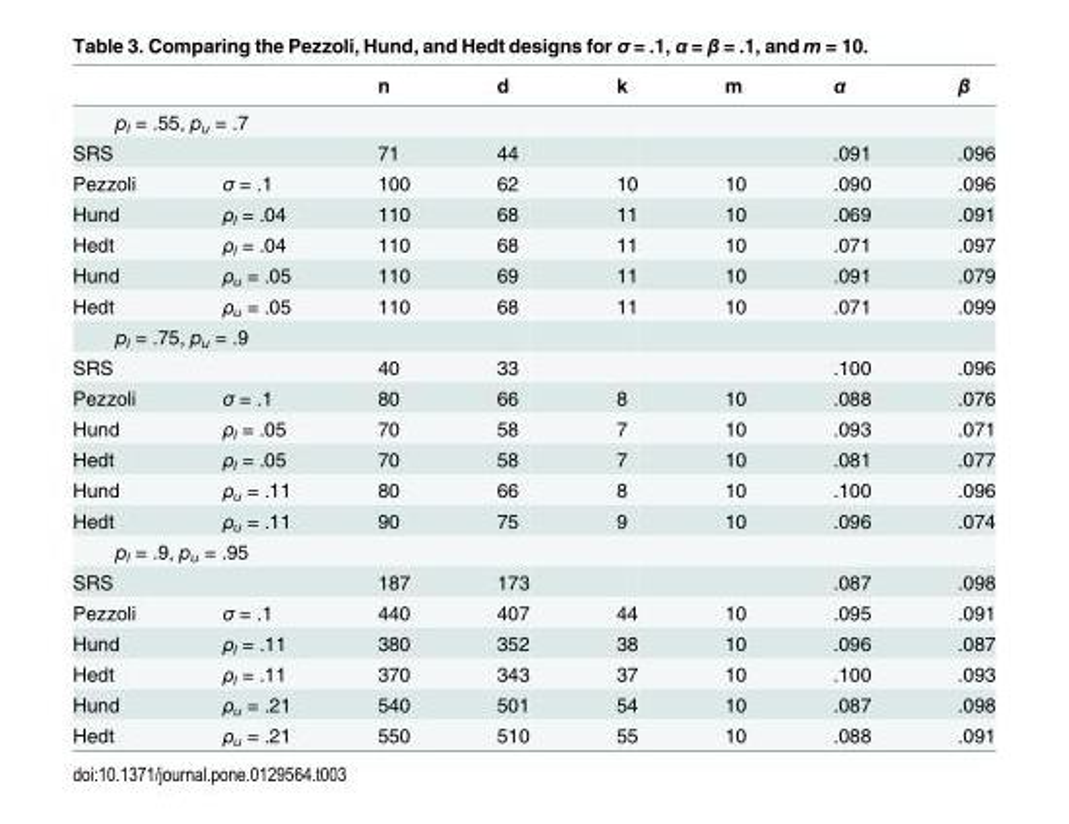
<table><thead><tr><td></td><td></td><td>n</td><td>d</td><td>k</td><td>m</td><td>α</td><td>β</td></tr></thead><tbody><tr><td colspan="8">p<sub>l</sub> = .55, p<sub>u</sub> = .7</td></tr><tr><td>SRS</td><td></td><td>71</td><td>44</td><td></td><td></td><td>.091</td><td>.096</td></tr><tr><td>Pezzoli</td><td>σ = .1</td><td>100</td><td>62</td><td>10</td><td>10</td><td>.090</td><td>.096</td></tr><tr><td>Hund</td><td>ρ<sub>l</sub> = .04</td><td>110</td><td>68</td><td>11</td><td>10</td><td>.069</td><td>.091</td></tr><tr><td>Hedt</td><td>ρ<sub>l</sub> = .04</td><td>110</td><td>68</td><td>11</td><td>10</td><td>.071</td><td>.097</td></tr><tr><td>Hund</td><td>ρ<sub>u</sub> = .05</td><td>110</td><td>69</td><td>11</td><td>10</td><td>.091</td><td>.079</td></tr><tr><td>Hedt</td><td>ρ<sub>u</sub> = .05</td><td>110</td><td>68</td><td>11</td><td>10</td><td>.071</td><td>.099</td></tr><tr><td colspan="8">p<sub>l</sub> = .75, p<sub>u</sub> = .9</td></tr><tr><td>SRS</td><td></td><td>40</td><td>33</td><td></td><td></td><td>.100</td><td>.096</td></tr><tr><td>Pezzoli</td><td>σ = .1</td><td>80</td><td>66</td><td>8</td><td>10</td><td>.088</td><td>.076</td></tr><tr><td>Hund</td><td>ρ<sub>l</sub> = .05</td><td>70</td><td>58</td><td>7</td><td>10</td><td>.093</td><td>.071</td></tr><tr><td>Hedt</td><td>ρ<sub>l</sub> = .05</td><td>70</td><td>58</td><td>7</td><td>10</td><td>.081</td><td>.077</td></tr><tr><td>Hund</td><td>ρ<sub>u</sub> = .11</td><td>80</td><td>66</td><td>8</td><td>10</td><td>.100</td><td>.096</td></tr><tr><td>Hedt</td><td>ρ<sub>u</sub> = .11</td><td>90</td><td>75</td><td>9</td><td>10</td><td>.096</td><td>.074</td></tr><tr><td colspan="8">p<sub>l</sub> = .9, p<sub>u</sub> = .95</td></tr><tr><td>SRS</td><td></td><td>187</td><td>173</td><td></td><td></td><td>.087</td><td>.098</td></tr><tr><td>Pezzoli</td><td>σ = .1</td><td>440</td><td>407</td><td>44</td><td>10</td><td>.095</td><td>.091</td></tr><tr><td>Hund</td><td>ρ<sub>l</sub> = .11</td><td>380</td><td>352</td><td>38</td><td>10</td><td>.096</td><td>.087</td></tr><tr><td>Hedt</td><td>ρ<sub>l</sub> = .11</td><td>370</td><td>343</td><td>37</td><td>10</td><td>.100</td><td>.093</td></tr><tr><td>Hund</td><td>ρ<sub>u</sub> = .21</td><td>540</td><td>501</td><td>54</td><td>10</td><td>.087</td><td>.098</td></tr><tr><td>Hedt</td><td>ρ<sub>u</sub> = .21</td><td>550</td><td>510</td><td>55</td><td>10</td><td>.088</td><td>.091</td></tr></tbody></table>